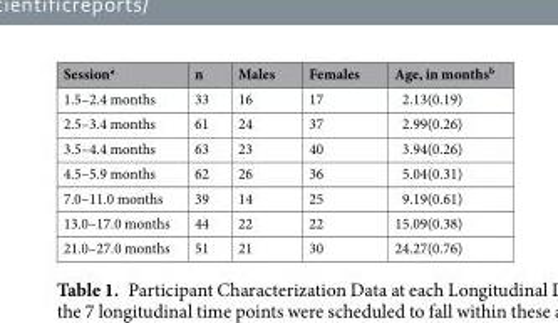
<table><thead><tr><td>Session<sup>a</sup></td><td>n</td><td>Males</td><td>Females</td><td>Age, in months<sup>b</sup></td></tr></thead><tbody><tr><td>1.5–2.4 months</td><td>33</td><td>16</td><td>17</td><td>2.13(0.19)</td></tr><tr><td>2.5–3.4 months</td><td>61</td><td>24</td><td>37</td><td>2.99(0.26)</td></tr><tr><td>3.5–4.4 months</td><td>63</td><td>23</td><td>40</td><td>3.94(0.26)</td></tr><tr><td>4.5–5.9 months</td><td>62</td><td>26</td><td>36</td><td>5.04(0.31)</td></tr><tr><td>7.0–11.0 months</td><td>39</td><td>14</td><td>25</td><td>9.19(0.61)</td></tr><tr><td>13.0–17.0 months</td><td>44</td><td>22</td><td>22</td><td>15.09(0.38)</td></tr><tr><td>21.0–27.0 months</td><td>51</td><td>21</td><td>30</td><td>24.27(0.76)</td></tr></tbody></table>